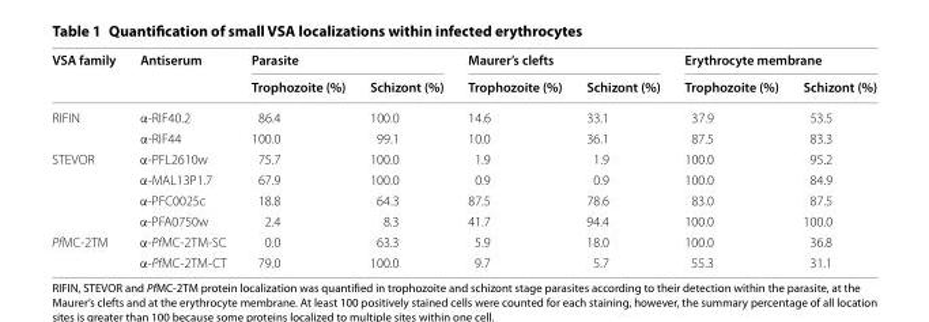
<table><thead><tr><td rowspan="2">VSA family</td><td rowspan="2">Antiserum</td><td colspan="2">Parasite</td><td colspan="2">Maurer’s clefts</td><td colspan="2">Erythrocyte membrane</td></tr><tr><td>Trophozoite (%)</td><td>Schizont (%)</td><td>Trophozoite (%)</td><td>Schizont (%)</td><td>Trophozoite (%)</td><td>Schizont (%)</td></tr></thead><tbody><tr><td rowspan="2">RIFIN</td><td>α‑RIF40.2</td><td>86.4</td><td>100.0</td><td>14.6</td><td>33.1</td><td>37.9</td><td>53.5</td></tr><tr><td>α‑RIF44</td><td>100.0</td><td>99.1</td><td>10.0</td><td>36.1</td><td>87.5</td><td>83.3</td></tr><tr><td rowspan="4">STEVOR</td><td>α‑PFL2610w</td><td>75.7</td><td>100.0</td><td>1.9</td><td>1.9</td><td>100.0</td><td>95.2</td></tr><tr><td>α‑MAL13P1.7</td><td>67.9</td><td>100.0</td><td>0.9</td><td>0.9</td><td>100.0</td><td>84.9</td></tr><tr><td>α‑PFC0025c</td><td>18.8</td><td>64.3</td><td>87.5</td><td>78.6</td><td>83.0</td><td>87.5</td></tr><tr><td>α‑PFA0750w</td><td>2.4</td><td>8.3</td><td>41.7</td><td>94.4</td><td>100.0</td><td>100.0</td></tr><tr><td rowspan="2">PfMC‑2TM</td><td>α‑PfMC‑2TM‑SC</td><td>0.0</td><td>63.3</td><td>5.9</td><td>18.0</td><td>100.0</td><td>36.8</td></tr><tr><td>α‑PfMC‑2TM‑CT</td><td>79.0</td><td>100.0</td><td>9.7</td><td>5.7</td><td>55.3</td><td>31.1</td></tr></tbody></table>